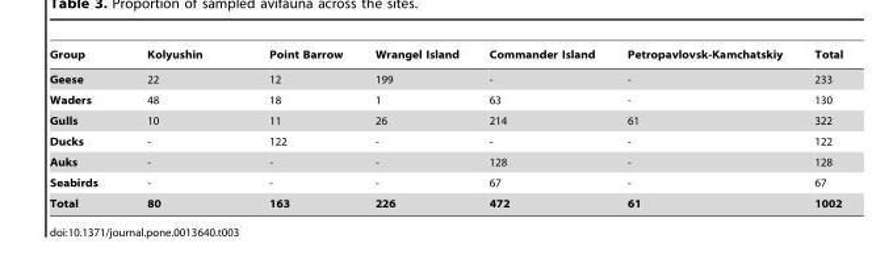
<table><thead><tr><td>Group</td><td>Kolyushin</td><td>Point Barrow</td><td>Wrangel Island</td><td>Commander Island</td><td>Petropavlovsk-Kamchatskiy</td><td>Total</td></tr></thead><tbody><tr><td>Geese</td><td>22</td><td>12</td><td>199</td><td>-</td><td>-</td><td>233</td></tr><tr><td>Waders</td><td>48</td><td>18</td><td>1</td><td>63</td><td>-</td><td>130</td></tr><tr><td>Gulls</td><td>10</td><td>11</td><td>26</td><td>214</td><td>61</td><td>322</td></tr><tr><td>Ducks</td><td>-</td><td>122</td><td>-</td><td>-</td><td>-</td><td>122</td></tr><tr><td>Auks</td><td>-</td><td>-</td><td>-</td><td>128</td><td>-</td><td>128</td></tr><tr><td>Seabirds</td><td>-</td><td>-</td><td>-</td><td>67</td><td>-</td><td>67</td></tr><tr><td>Total</td><td>80</td><td>163</td><td>226</td><td>472</td><td>61</td><td>1002</td></tr></tbody></table>